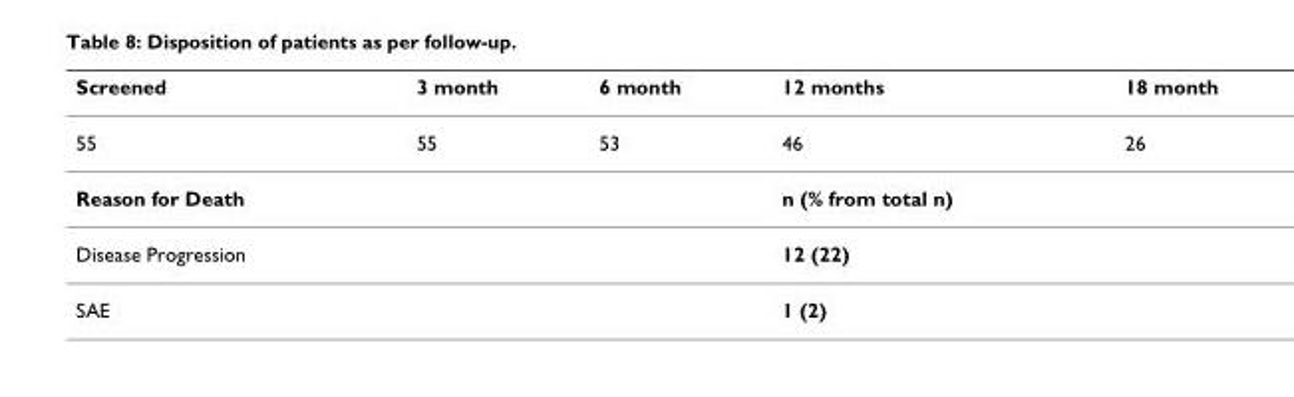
<table><thead><tr><td>Screened</td><td>3 month</td><td>6 month</td><td>12 months</td><td>18 month</td></tr></thead><tbody><tr><td>55</td><td>55</td><td>53</td><td>46</td><td>26</td></tr><tr><td>Reason for Death</td><td></td><td></td><td>n (% from total n)</td><td></td></tr><tr><td>Disease Progression</td><td></td><td></td><td>12 (22)</td><td></td></tr><tr><td>SAE</td><td></td><td></td><td>1 (2)</td><td></td></tr></tbody></table>